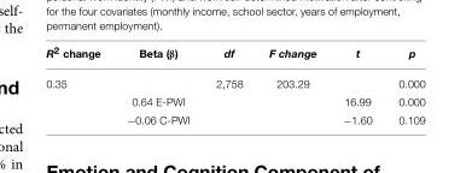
<table><thead><tr><td>R<sup>2</sup> change</td><td>Beta (β)</td><td>df</td><td>F change</td><td>t</td><td>p</td></tr></thead><tbody><tr><td rowspan="3">0.35</td><td></td><td>2,758</td><td>203.29</td><td></td><td>0.000</td></tr><tr><td>0.64 E-PWI</td><td></td><td></td><td>16.99</td><td>0.000</td></tr><tr><td>−0.06 C-PWI</td><td></td><td></td><td>−1.60</td><td>0.109</td></tr></tbody></table>